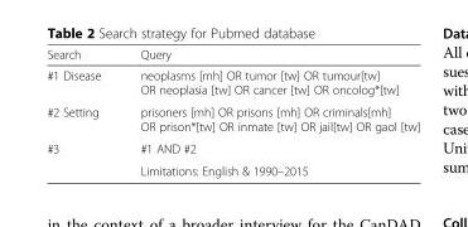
<table><thead><tr><td>Search</td><td>Query</td></tr></thead><tbody><tr><td>#1 Disease</td><td>neoplasms [mh] OR tumor [tw] OR tumour[tw] OR neoplasia [tw] OR cancer [tw] OR oncolog*[tw]</td></tr><tr><td>#2 Setting</td><td>prisoners [mh] OR prisons [mh] OR criminals[mh] OR prison*[tw] OR inmate [tw] OR jail[tw] OR gaol [tw]</td></tr><tr><td rowspan="2">#3</td><td>#1 AND #2</td></tr><tr><td>Limitations: English &amp; 1990–2015</td></tr></tbody></table>